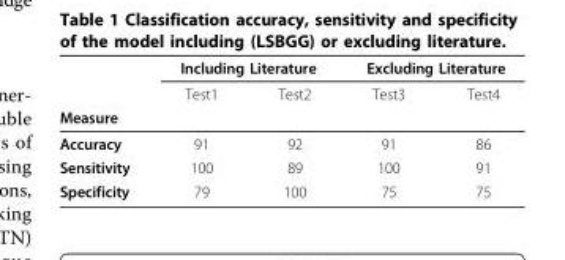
<table><thead><tr><td rowspan="3">Measure</td><td colspan="2">Including Literature</td><td colspan="2">Excluding Literature</td></tr><tr><td rowspan="2">Test1</td><td rowspan="2">Test2</td><td rowspan="2">Test3</td><td rowspan="2">Test4</td></tr><tr></tr></thead><tbody><tr><td>Accuracy</td><td>91</td><td>92</td><td>91</td><td>86</td></tr><tr><td>Sensitivity</td><td>100</td><td>89</td><td>100</td><td>91</td></tr><tr><td>Specificity</td><td>79</td><td>100</td><td>75</td><td>75</td></tr></tbody></table>